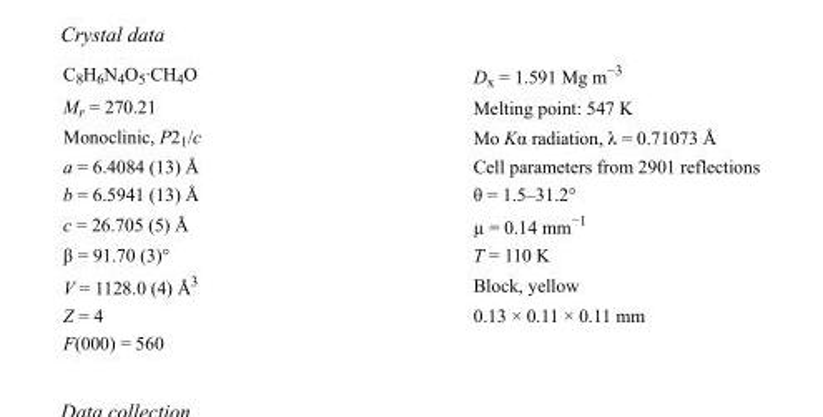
<table><tbody><tr><td>C<sub>8</sub>H<sub>6</sub>N<sub>4</sub>O<sub>5</sub>·CH<sub>4</sub>O</td><td>D<sub>x</sub> = 1.591 Mg m<sup>−3</sup></td></tr><tr><td>M<sub>r</sub> = 270.21</td><td>Melting point: 547 K</td></tr><tr><td>Monoclinic, P2<sub>1</sub>/c</td><td>Mo Kα radiation, λ = 0.71073 Å</td></tr><tr><td>a = 6.4084 (13) Å</td><td>Cell parameters from 2901 reflections</td></tr><tr><td>b = 6.5941 (13) Å</td><td>θ = 1.5–31.2°</td></tr><tr><td>c = 26.705 (5) Å</td><td>µ = 0.14 mm<sup>−1</sup></td></tr><tr><td>β = 91.70 (3)°</td><td>T = 110 K</td></tr><tr><td>V = 1128.0 (4) Å<sup>3</sup></td><td>Block, yellow</td></tr><tr><td>Z = 4</td><td>0.13 × 0.11 × 0.11 mm</td></tr><tr><td>F(000) = 560</td><td></td></tr></tbody></table>